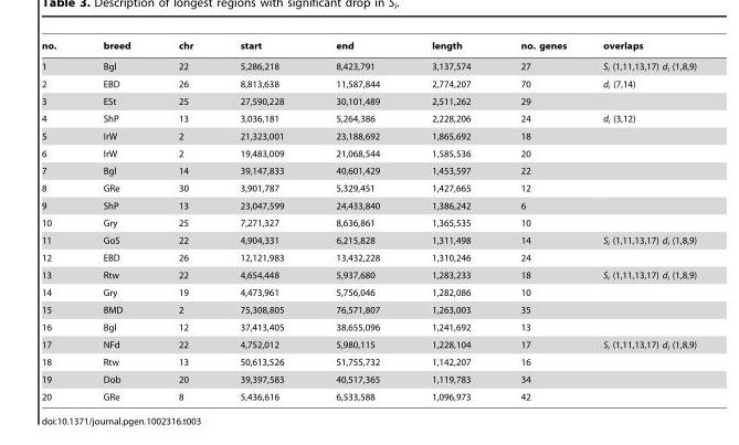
<table><thead><tr><td>no.</td><td>breed</td><td>chr</td><td>start</td><td>end</td><td>length</td><td>no. genes</td><td>overlaps</td></tr></thead><tbody><tr><td>1</td><td>Bgl</td><td>22</td><td>5,286,218</td><td>8,423,791</td><td>3,137,574</td><td>27</td><td>S<sub>i</sub> (1,11,13,17) d<sub>i</sub> (1,8,9)</td></tr><tr><td>2</td><td>EBD</td><td>26</td><td>8,813,638</td><td>11,587,844</td><td>2,774,207</td><td>70</td><td>d<sub>i</sub> (7,14)</td></tr><tr><td>3</td><td>ESt</td><td>25</td><td>27,590,228</td><td>30,101,489</td><td>2,511,262</td><td>29</td><td></td></tr><tr><td>4</td><td>ShP</td><td>13</td><td>3,036,181</td><td>5,264,386</td><td>2,228,206</td><td>24</td><td>d<sub>i</sub> (3,12)</td></tr><tr><td>5</td><td>IrW</td><td>2</td><td>21,323,001</td><td>23,188,692</td><td>1,865,692</td><td>18</td><td></td></tr><tr><td>6</td><td>IrW</td><td>2</td><td>19,483,009</td><td>21,068,544</td><td>1,585,536</td><td>20</td><td></td></tr><tr><td>7</td><td>Bgl</td><td>14</td><td>39,147,833</td><td>40,601,429</td><td>1,453,597</td><td>22</td><td></td></tr><tr><td>8</td><td>GRe</td><td>30</td><td>3,901,787</td><td>5,329,451</td><td>1,427,665</td><td>12</td><td></td></tr><tr><td>9</td><td>ShP</td><td>13</td><td>23,047,599</td><td>24,433,840</td><td>1,386,242</td><td>6</td><td></td></tr><tr><td>10</td><td>Gry</td><td>25</td><td>7,271,327</td><td>8,636,861</td><td>1,365,535</td><td>10</td><td></td></tr><tr><td>11</td><td>GoS</td><td>22</td><td>4,904,331</td><td>6,215,828</td><td>1,311,498</td><td>14</td><td>S<sub>i</sub> (1,11,13,17) d<sub>i</sub> (1,8,9)</td></tr><tr><td>12</td><td>EBD</td><td>26</td><td>12,121,983</td><td>13,432,228</td><td>1,310,246</td><td>24</td><td></td></tr><tr><td>13</td><td>Rtw</td><td>22</td><td>4,654,448</td><td>5,937,680</td><td>1,283,233</td><td>18</td><td>S<sub>i</sub> (1,11,13,17) d<sub>i</sub> (1,8,9)</td></tr><tr><td>14</td><td>Gry</td><td>19</td><td>4,473,961</td><td>5,756,046</td><td>1,282,086</td><td>10</td><td></td></tr><tr><td>15</td><td>BMD</td><td>2</td><td>75,308,805</td><td>76,571,807</td><td>1,263,003</td><td>35</td><td></td></tr><tr><td>16</td><td>Bgl</td><td>12</td><td>37,413,405</td><td>38,655,096</td><td>1,241,692</td><td>13</td><td></td></tr><tr><td>17</td><td>NFd</td><td>22</td><td>4,752,012</td><td>5,980,115</td><td>1,228,104</td><td>17</td><td>S<sub>i</sub> (1,11,13,17) d<sub>i</sub> (1,8,9)</td></tr><tr><td>18</td><td>Rtw</td><td>13</td><td>50,613,526</td><td>51,755,732</td><td>1,142,207</td><td>16</td><td></td></tr><tr><td>19</td><td>Dob</td><td>20</td><td>39,397,583</td><td>40,517,365</td><td>1,119,783</td><td>34</td><td></td></tr><tr><td>20</td><td>GRe</td><td>8</td><td>5,436,616</td><td>6,533,588</td><td>1,096,973</td><td>42</td><td></td></tr></tbody></table>